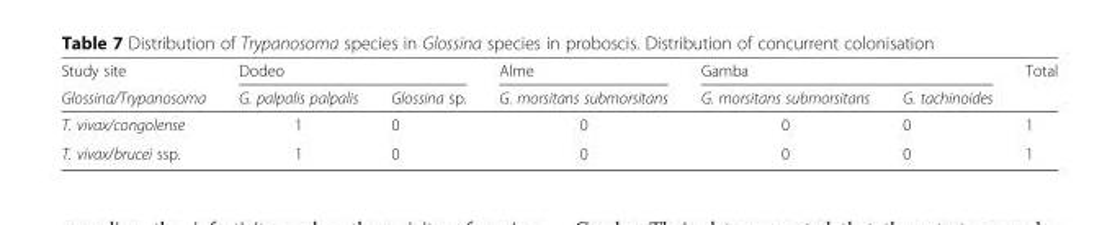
<table><thead><tr><td rowspan="2">Study site Glossina/Trypanosoma</td><td colspan="2">Dodeo</td><td rowspan="2">Alme G. morsitans submorsitans</td><td colspan="2">Gamba</td><td rowspan="2">Total</td></tr><tr><td>G. palpalis palpalis</td><td>Glossina sp.</td><td>G. morsitans submorsitans</td><td>G. tachinoides</td></tr></thead><tbody><tr><td>T. vivax/congolense</td><td>1</td><td>0</td><td>0</td><td>0</td><td>0</td><td>1</td></tr><tr><td>T. vivax/brucei ssp.</td><td>1</td><td>0</td><td>0</td><td>0</td><td>0</td><td>1</td></tr></tbody></table>